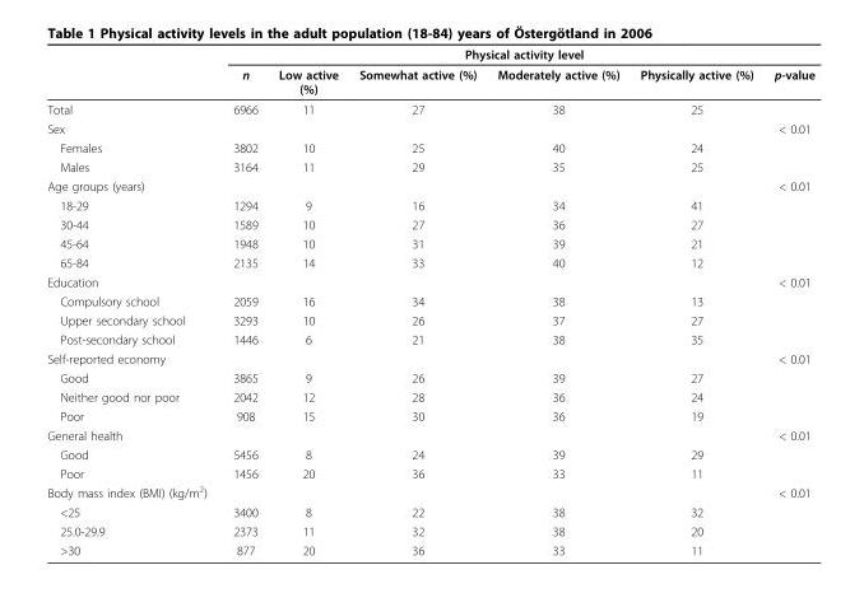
<table><thead><tr><td rowspan="2"></td><td colspan="6">Physical activity level</td></tr><tr><td>n</td><td>Low active (%)</td><td>Somewhat active (%)</td><td>Moderately active (%)</td><td>Physically active (%)</td><td>p-value</td></tr></thead><tbody><tr><td>Total</td><td>6966</td><td>11</td><td>27</td><td>38</td><td>25</td><td></td></tr><tr><td>Sex</td><td></td><td></td><td></td><td></td><td></td><td>&lt; 0.01</td></tr><tr><td>Females</td><td>3802</td><td>10</td><td>25</td><td>40</td><td>24</td><td></td></tr><tr><td>Males</td><td>3164</td><td>11</td><td>29</td><td>35</td><td>25</td><td></td></tr><tr><td>Age groups (years)</td><td></td><td></td><td></td><td></td><td></td><td>&lt; 0.01</td></tr><tr><td>18-29</td><td>1294</td><td>9</td><td>16</td><td>34</td><td>41</td><td></td></tr><tr><td>30-44</td><td>1589</td><td>10</td><td>27</td><td>36</td><td>27</td><td></td></tr><tr><td>45-64</td><td>1948</td><td>10</td><td>31</td><td>39</td><td>21</td><td></td></tr><tr><td>65-84</td><td>2135</td><td>14</td><td>33</td><td>40</td><td>12</td><td></td></tr><tr><td>Education</td><td></td><td></td><td></td><td></td><td></td><td>&lt; 0.01</td></tr><tr><td>Compulsory school</td><td>2059</td><td>16</td><td>34</td><td>38</td><td>13</td><td></td></tr><tr><td>Upper secondary school</td><td>3293</td><td>10</td><td>26</td><td>37</td><td>27</td><td></td></tr><tr><td>Post-secondary school</td><td>1446</td><td>6</td><td>21</td><td>38</td><td>35</td><td></td></tr><tr><td>Self-reported economy</td><td></td><td></td><td></td><td></td><td></td><td>&lt; 0.01</td></tr><tr><td>Good</td><td>3865</td><td>9</td><td>26</td><td>39</td><td>27</td><td></td></tr><tr><td>Neither good nor poor</td><td>2042</td><td>12</td><td>28</td><td>36</td><td>24</td><td></td></tr><tr><td>Poor</td><td>908</td><td>15</td><td>30</td><td>36</td><td>19</td><td></td></tr><tr><td>General health</td><td></td><td></td><td></td><td></td><td></td><td>&lt; 0.01</td></tr><tr><td>Good</td><td>5456</td><td>8</td><td>24</td><td>39</td><td>29</td><td></td></tr><tr><td>Poor</td><td>1456</td><td>20</td><td>36</td><td>33</td><td>11</td><td></td></tr><tr><td>Body mass index (BMI) (kg/m<sup>2</sup>)</td><td></td><td></td><td></td><td></td><td></td><td>&lt; 0.01</td></tr><tr><td>&lt;25</td><td>3400</td><td>8</td><td>22</td><td>38</td><td>32</td><td></td></tr><tr><td>25.0-29.9</td><td>2373</td><td>11</td><td>32</td><td>38</td><td>20</td><td></td></tr><tr><td>&gt;30</td><td>877</td><td>20</td><td>36</td><td>33</td><td>11</td><td></td></tr></tbody></table>